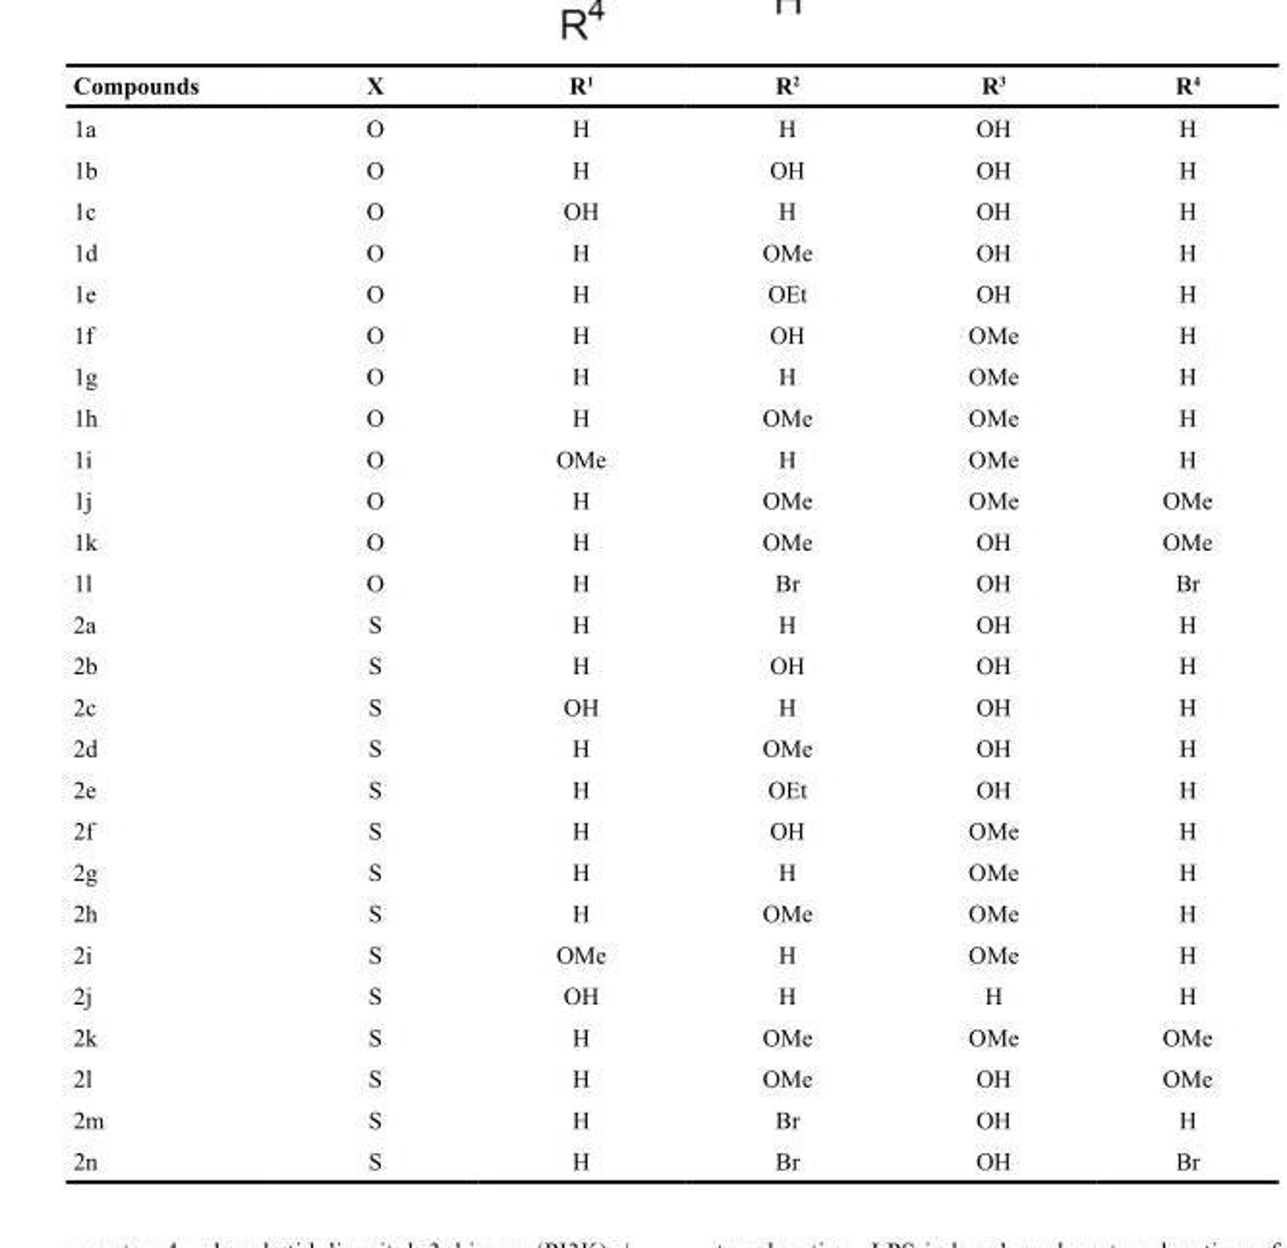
<table><thead><tr><td>Compounds</td><td>X</td><td>R<sup>1</sup></td><td>R<sup>2</sup></td><td>R<sup>3</sup></td><td>R<sup>4</sup></td></tr></thead><tbody><tr><td>1a</td><td>O</td><td>H</td><td>H</td><td>OH</td><td>H</td></tr><tr><td>1b</td><td>O</td><td>H</td><td>OH</td><td>OH</td><td>H</td></tr><tr><td>1c</td><td>O</td><td>OH</td><td>H</td><td>OH</td><td>H</td></tr><tr><td>1d</td><td>O</td><td>H</td><td>OMe</td><td>OH</td><td>H</td></tr><tr><td>1e</td><td>O</td><td>H</td><td>OEt</td><td>OH</td><td>H</td></tr><tr><td>1f</td><td>O</td><td>H</td><td>OH</td><td>OMe</td><td>H</td></tr><tr><td>1g</td><td>O</td><td>H</td><td>H</td><td>OMe</td><td>H</td></tr><tr><td>1h</td><td>O</td><td>H</td><td>OMe</td><td>OMe</td><td>H</td></tr><tr><td>1i</td><td>O</td><td>OMe</td><td>H</td><td>OMe</td><td>H</td></tr><tr><td>1j</td><td>O</td><td>H</td><td>OMe</td><td>OMe</td><td>OMe</td></tr><tr><td>1k</td><td>O</td><td>H</td><td>OMe</td><td>OH</td><td>OMe</td></tr><tr><td>1l</td><td>O</td><td>H</td><td>Br</td><td>OH</td><td>Br</td></tr><tr><td>2a</td><td>S</td><td>H</td><td>H</td><td>OH</td><td>H</td></tr><tr><td>2b</td><td>S</td><td>H</td><td>OH</td><td>OH</td><td>H</td></tr><tr><td>2c</td><td>S</td><td>OH</td><td>H</td><td>OH</td><td>H</td></tr><tr><td>2d</td><td>S</td><td>H</td><td>OMe</td><td>OH</td><td>H</td></tr><tr><td>2e</td><td>S</td><td>H</td><td>OEt</td><td>OH</td><td>H</td></tr><tr><td>2f</td><td>S</td><td>H</td><td>OH</td><td>OMe</td><td>H</td></tr><tr><td>2g</td><td>S</td><td>H</td><td>H</td><td>OMe</td><td>H</td></tr><tr><td>2h</td><td>S</td><td>H</td><td>OMe</td><td>OMe</td><td>H</td></tr><tr><td>2i</td><td>S</td><td>OMe</td><td>H</td><td>OMe</td><td>H</td></tr><tr><td>2j</td><td>S</td><td>OH</td><td>H</td><td>H</td><td>H</td></tr><tr><td>2k</td><td>S</td><td>H</td><td>OMe</td><td>OMe</td><td>OMe</td></tr><tr><td>2l</td><td>S</td><td>H</td><td>OMe</td><td>OH</td><td>OMe</td></tr><tr><td>2m</td><td>S</td><td>H</td><td>Br</td><td>OH</td><td>H</td></tr><tr><td>2n</td><td>S</td><td>H</td><td>Br</td><td>OH</td><td>Br</td></tr></tbody></table>